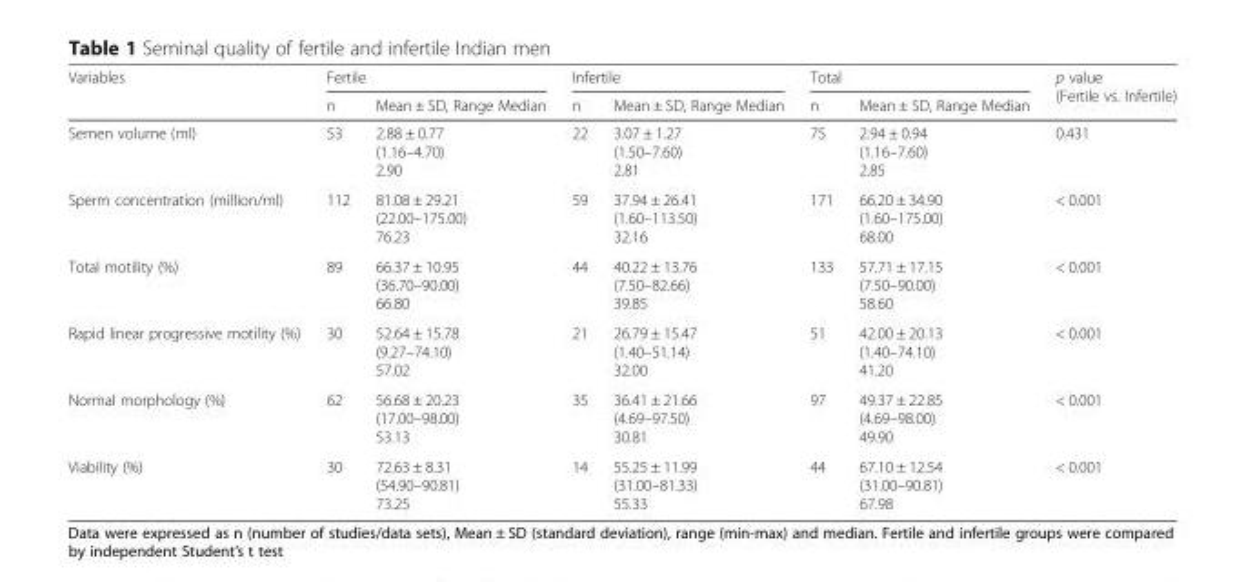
<table><thead><tr><td rowspan="2">Variables</td><td colspan="2">Fertile</td><td colspan="2">Infertile</td><td colspan="2">Total</td><td rowspan="2">p value (Fertile vs. Infertile)</td></tr><tr><td>n</td><td>Mean ± SD, Range Median</td><td>n</td><td>Mean ± SD, Range Median</td><td>n</td><td>Mean ± SD, Range Median</td></tr></thead><tbody><tr><td>Semen volume (ml)</td><td>53</td><td>2.88 ± 0.77 (1.16–4.70) 2.90</td><td>22</td><td>3.07 ± 1.27 (1.50–7.60) 2.81</td><td>75</td><td>2.94 ± 0.94 (1.16–7.60) 2.85</td><td>0.431</td></tr><tr><td>Sperm concentration (million/ml)</td><td>112</td><td>81.08 ± 29.21 (22.00–175.00) 76.23</td><td>59</td><td>37.94 ± 26.41 (1.60–113.50) 32.16</td><td>171</td><td>66.20 ± 34.90 (1.60–175.00) 68.00</td><td>&lt; 0.001</td></tr><tr><td>Total motility (%)</td><td>89</td><td>66.37 ± 10.95 (36.70–90.00) 66.80</td><td>44</td><td>40.22 ± 13.76 (7.50–82.66) 39.85</td><td>133</td><td>57.71 ± 17.15 (7.50–90.00) 58.60</td><td>&lt; 0.001</td></tr><tr><td>Rapid linear progressive motility (%)</td><td>30</td><td>52.64 ± 15.78 (9.27–74.10) 57.02</td><td>21</td><td>26.79 ± 15.47 (1.40–51.14) 32.00</td><td>51</td><td>42.00 ± 20.13 (1.40–74.10) 41.20</td><td>&lt; 0.001</td></tr><tr><td>Normal morphology (%)</td><td>62</td><td>56.68 ± 20.23 (17.00–98.00) 53.13</td><td>35</td><td>36.41 ± 21.66 (4.69–97.50) 30.81</td><td>97</td><td>49.37 ± 22.85 (4.69–98.00) 49.90</td><td>&lt; 0.001</td></tr><tr><td>Viability (%)</td><td>30</td><td>72.63 ± 8.31 (54.90–90.81) 73.25</td><td>14</td><td>55.25 ± 11.99 (31.00–81.33) 55.33</td><td>44</td><td>67.10 ± 12.54 (31.00–90.81) 67.98</td><td>&lt; 0.001</td></tr></tbody></table>